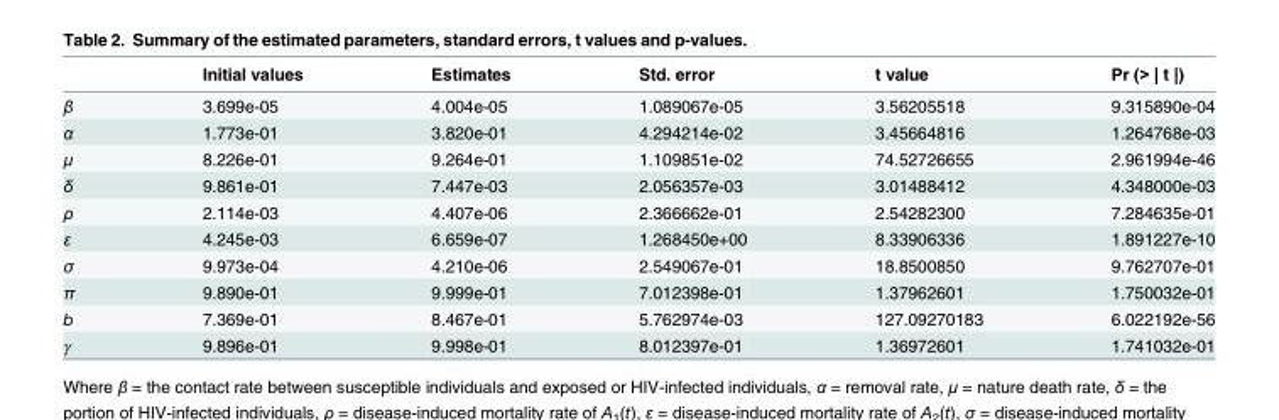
<table><thead><tr><td></td><td>Initial values</td><td>Estimates</td><td>Std. error</td><td>t value</td><td>Pr (&gt; | t |)</td></tr></thead><tbody><tr><td>β</td><td>3.699e-05</td><td>4.004e-05</td><td>1.089067e-05</td><td>3.56205518</td><td>9.315890e-04</td></tr><tr><td>α</td><td>1.773e-01</td><td>3.820e-01</td><td>4.294214e-02</td><td>3.45664816</td><td>1.264768e-03</td></tr><tr><td>μ</td><td>8.226e-01</td><td>9.264e-01</td><td>1.109851e-02</td><td>74.52726655</td><td>2.961994e-46</td></tr><tr><td>δ</td><td>9.861e-01</td><td>7.447e-03</td><td>2.056357e-03</td><td>3.01488412</td><td>4.348000e-03</td></tr><tr><td>ρ</td><td>2.114e-03</td><td>4.407e-06</td><td>2.366662e-01</td><td>2.54282300</td><td>7.284635e-01</td></tr><tr><td>ε</td><td>4.245e-03</td><td>6.659e-07</td><td>1.268450e+00</td><td>8.33906336</td><td>1.891227e-10</td></tr><tr><td>σ</td><td>9.973e-04</td><td>4.210e-06</td><td>2.549067e-01</td><td>18.8500850</td><td>9.762707e-01</td></tr><tr><td>π</td><td>9.890e-01</td><td>9.999e-01</td><td>7.012398e-01</td><td>1.37962601</td><td>1.750032e-01</td></tr><tr><td>b</td><td>7.369e-01</td><td>8.467e-01</td><td>5.762974e-03</td><td>127.09270183</td><td>6.022192e-56</td></tr><tr><td>γ</td><td>9.896e-01</td><td>9.998e-01</td><td>8.012397e-01</td><td>1.36972601</td><td>1.741032e-01</td></tr></tbody></table>